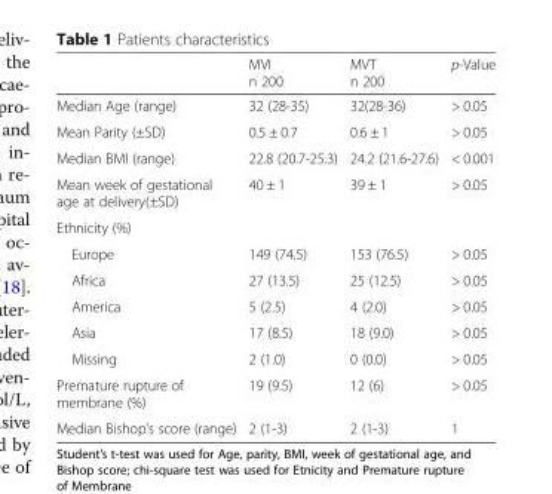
<table><thead><tr><td></td><td>MVI n 200</td><td>MVT n 200</td><td>p-Value</td></tr></thead><tbody><tr><td>Median Age (range)</td><td>32 (28-35)</td><td>32(28-36)</td><td>&gt; 0.05</td></tr><tr><td>Mean Parity (±SD)</td><td>0.5 ± 0.7</td><td>0.6 ± 1</td><td>&gt; 0.05</td></tr><tr><td>Median BMI (range)</td><td>22.8 (20.7-25.3)</td><td>24.2 (21.6-27.6)</td><td>&lt; 0.001</td></tr><tr><td>Mean week of gestational age at delivery(±SD)</td><td>40 ± 1</td><td>39 ± 1</td><td>&gt; 0.05</td></tr><tr><td colspan="4">Ethnicity (%)</td></tr><tr><td>Europe</td><td>149 (74.5)</td><td>153 (76.5)</td><td>&gt; 0.05</td></tr><tr><td>Africa</td><td>27 (13.5)</td><td>25 (12.5)</td><td>&gt; 0.05</td></tr><tr><td>America</td><td>5 (2.5)</td><td>4 (2.0)</td><td>&gt; 0.05</td></tr><tr><td>Asia</td><td>17 (8.5)</td><td>18 (9.0)</td><td>&gt; 0.05</td></tr><tr><td>Missing</td><td>2 (1.0)</td><td>0 (0.0)</td><td>&gt; 0.05</td></tr><tr><td>Premature rupture of membrane (%)</td><td>19 (9.5)</td><td>12 (6)</td><td>&gt; 0.05</td></tr><tr><td>Median Bishop’s score (range)</td><td>2 (1-3)</td><td>2 (1-3)</td><td>1</td></tr></tbody></table>